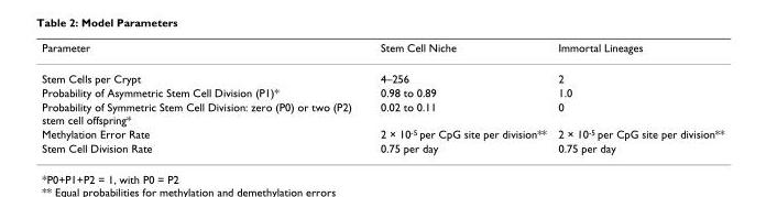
<table><thead><tr><td>Parameter</td><td>Stem Cell Niche</td><td>Immortal Lineages</td></tr></thead><tbody><tr><td>Stem Cells per Crypt</td><td>4–256</td><td>2</td></tr><tr><td>Probability of Asymmetric Stem Cell Division (P1)*</td><td>0.98 to 0.89</td><td>1.0</td></tr><tr><td>Probability of Symmetric Stem Cell Division: zero (P0) or two (P2) stem cell offspring*</td><td>0.02 to 0.11</td><td>0</td></tr><tr><td>Methylation Error Rate</td><td>2 × 10<sup>-5</sup> per CpG site per division**</td><td>2 × 10<sup>-5</sup> per CpG site per division**</td></tr><tr><td>Stem Cell Division Rate</td><td>0.75 per day</td><td>0.75 per day</td></tr></tbody></table>